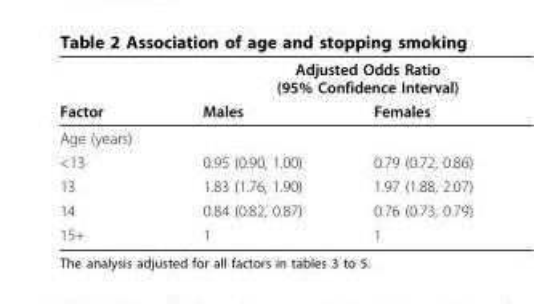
<table><thead><tr><td rowspan="2">Factor</td><td colspan="2">Adjusted Odds Ratio (95% Confidence Interval)</td></tr><tr><td>Males</td><td>Females</td></tr></thead><tbody><tr><td colspan="3">Age (years)</td></tr><tr><td>&lt;13</td><td>0.95 (0.90, 1.00)</td><td>0.79 (0.72, 0.86)</td></tr><tr><td>13</td><td>1.83 (1.76, 1.90)</td><td>1.97 (1.88, 2.07)</td></tr><tr><td>14</td><td>0.84 (0.82, 0.87)</td><td>0.76 (0.73, 0.79)</td></tr><tr><td>15+</td><td>1</td><td>1</td></tr></tbody></table>